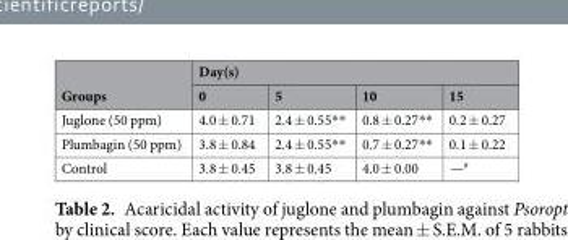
<table><thead><tr><td rowspan="2">Groups</td><td colspan="4">Day(s)</td></tr><tr><td>0</td><td>5</td><td>10</td><td>15</td></tr></thead><tbody><tr><td>Juglone (50 ppm)</td><td>4.0 ± 0.71</td><td>2.4 ± 0.55**</td><td>0.8 ± 0.27**</td><td>0.2 ± 0.27</td></tr><tr><td>Plumbagin (50 ppm)</td><td>3.8 ± 0.84</td><td>2.4 ± 0.55**</td><td>0.7 ± 0.27**</td><td>0.1 ± 0.22</td></tr><tr><td>Control</td><td>3.8 ± 0.45</td><td>3.8 ± 0.45</td><td>4.0 ± 0.00</td><td>—<sup>#</sup></td></tr></tbody></table>